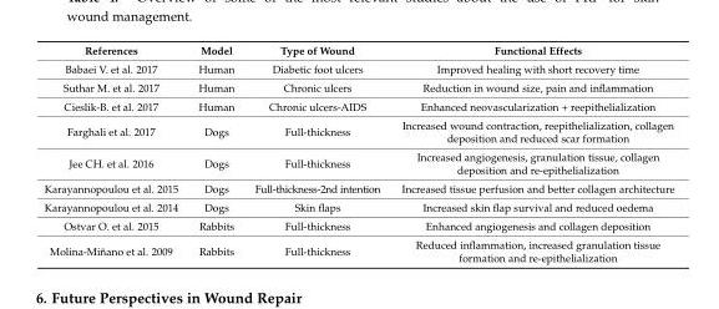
<table><thead><tr><td>References</td><td>Model</td><td>Type of Wound</td><td>Functional Effects</td></tr></thead><tbody><tr><td>Babaei V. et al. 2017</td><td>Human</td><td>Diabetic foot ulcers</td><td>Improved healing with short recovery time</td></tr><tr><td>Suthar M. et al. 2017</td><td>Human</td><td>Chronic ulcers</td><td>Reduction in wound size, pain and inflammation</td></tr><tr><td>Cieslik-B. et al. 2017</td><td>Human</td><td>Chronic ulcers-AIDS</td><td>Enhanced neovascularization + reepithelialization</td></tr><tr><td>Farghali et al. 2017</td><td>Dogs</td><td>Full-thickness</td><td>Increased wound contraction, reepithelialization, collagen deposition and reduced scar formation</td></tr><tr><td>Jee CH. et al. 2016</td><td>Dogs</td><td>Full-thickness</td><td>Increased angiogenesis, granulation tissue, collagen deposition and re-epithelialization</td></tr><tr><td>Karayannopoulou et al. 2015</td><td>Dogs</td><td>Full-thickness-2nd intention</td><td>Increased tissue perfusion and better collagen architecture</td></tr><tr><td>Karayannopoulou et al. 2014</td><td>Dogs</td><td>Skin flaps</td><td>Increased skin flap survival and reduced oedema</td></tr><tr><td>Ostvar O. et al. 2015</td><td>Rabbits</td><td>Full-thickness</td><td>Enhanced angiogenesis and collagen deposition</td></tr><tr><td>Molina-Miñano et al. 2009</td><td>Rabbits</td><td>Full-thickness</td><td>Reduced inflammation, increased granulation tissue formation and re-epithelialization</td></tr></tbody></table>